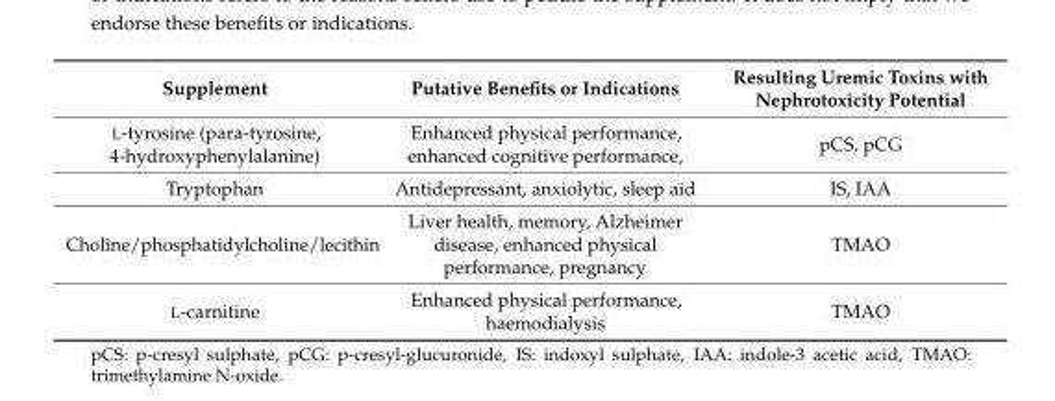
<table><thead><tr><td>Supplement</td><td>Putative Benefits or Indications</td><td>Resulting Uremic Toxins with Nephrotoxicity Potential</td></tr></thead><tbody><tr><td>L-tyrosine (para-tyrosine, 4-hydroxyphenylalanine)</td><td>Enhanced physical performance, enhanced cognitive performance,</td><td>pCS, pCG</td></tr><tr><td>Tryptophan</td><td>Antidepressant, anxiolytic, sleep aid</td><td>IS, IAA</td></tr><tr><td>Choline/phosphatidylcholine/lecithin</td><td>Liver health, memory, Alzheimer disease, enhanced physical performance, pregnancy</td><td>TMAO</td></tr><tr><td>L-carnitine</td><td>Enhanced physical performance, haemodialysis</td><td>TMAO</td></tr></tbody></table>